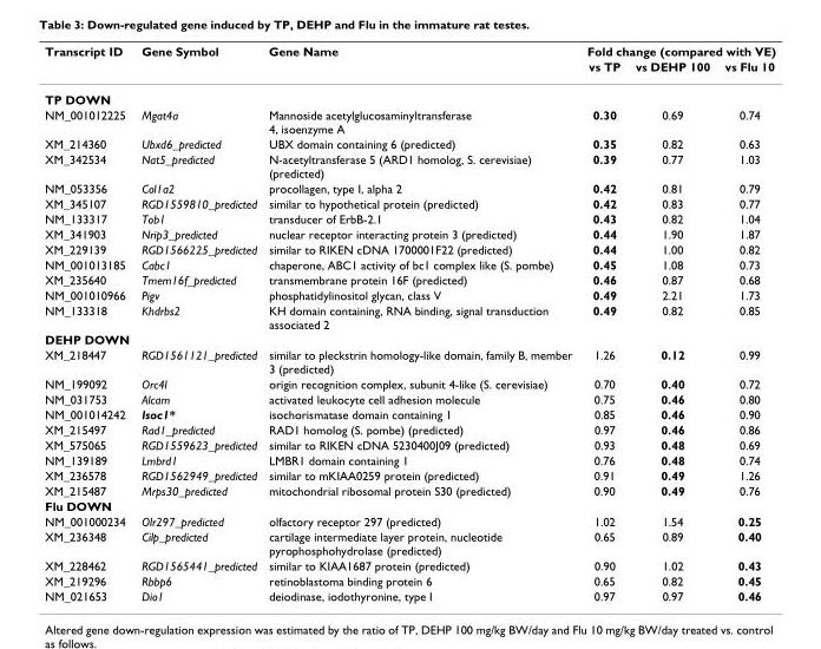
<table><thead><tr><td rowspan="2">Transcript ID</td><td rowspan="2">Gene Symbol</td><td rowspan="2">Gene Name</td><td colspan="3">Fold change (compared with VE)</td></tr><tr><td>vs TP</td><td>vs DEHP 100</td><td>vs Flu 10</td></tr></thead><tbody><tr><td colspan="6">TP DOWN</td></tr><tr><td>NM_001012225</td><td>Mgat4a</td><td>Mannoside acetylglucosaminyltransferase 4, isoenzyme A</td><td>0.30</td><td>0.69</td><td>0.74</td></tr><tr><td>XM_214360</td><td>Ubxd6_predicted</td><td>UBX domain containing 6 (predicted)</td><td>0.35</td><td>0.82</td><td>0.63</td></tr><tr><td>XM_342534</td><td>Nat5_predicted</td><td>N-acetyltransferase 5 (ARD1 homolog, S. cerevisiae) (predicted)</td><td>0.39</td><td>0.77</td><td>1.03</td></tr><tr><td>NM_053356</td><td>Col1a2</td><td>procollagen, type I, alpha 2</td><td>0.42</td><td>0.81</td><td>0.79</td></tr><tr><td>XM_345107</td><td>RGD1559810_predicted</td><td>similar to hypothetical protein (predicted)</td><td>0.42</td><td>0.83</td><td>0.77</td></tr><tr><td>NM_133317</td><td>Tob1</td><td>transducer of ErbB-2.1</td><td>0.43</td><td>0.82</td><td>1.04</td></tr><tr><td>XM_341903</td><td>Nrip3_predicted</td><td>nuclear receptor interacting protein 3 (predicted)</td><td>0.44</td><td>1.90</td><td>1.87</td></tr><tr><td>XM_229139</td><td>RGD1566225_predicted</td><td>similar to RIKEN cDNA 1700001F22 (predicted)</td><td>0.44</td><td>1.00</td><td>0.82</td></tr><tr><td>NM_001013185</td><td>Cabc1</td><td>chaperone, ABC1 activity of bc1 complex like (S. pombe)</td><td>0.45</td><td>1.08</td><td>0.73</td></tr><tr><td>XM_235640</td><td>Tmem16f_predicted</td><td>transmembrane protein 16F (predicted)</td><td>0.46</td><td>0.87</td><td>0.68</td></tr><tr><td>NM_001010966</td><td>Pigv</td><td>phosphatidylinositol glycan, class V</td><td>0.49</td><td>2.21</td><td>1.73</td></tr><tr><td>NM_133318</td><td>Khdrbs2</td><td>KH domain containing, RNA binding, signal transduction associated 2</td><td>0.49</td><td>0.82</td><td>0.85</td></tr><tr><td colspan="6">DEHP DOWN</td></tr><tr><td>XM_218447</td><td>RGD1561121_predicted</td><td>similar to pleckstrin homology-like domain, family B, member 3 (predicted)</td><td>1.26</td><td>0.12</td><td>0.99</td></tr><tr><td>NM_199092</td><td>Orc4l</td><td>origin recognition complex, subunit 4-like (S. cerevisiae)</td><td>0.70</td><td>0.40</td><td>0.72</td></tr><tr><td>NM_031753</td><td>Alcam</td><td>activated leukocyte cell adhesion molecule</td><td>0.75</td><td>0.46</td><td>0.80</td></tr><tr><td>NM_001014242</td><td>Isoc1*</td><td>isochorismatase domain containing 1</td><td>0.85</td><td>0.46</td><td>0.90</td></tr><tr><td>XM_215497</td><td>Rad1_predicted</td><td>RAD1 homolog (S. pombe) (predicted)</td><td>0.97</td><td>0.46</td><td>0.86</td></tr><tr><td>XM_575065</td><td>RGD1559623_predicted</td><td>similar to RIKEN cDNA 5230400J09 (predicted)</td><td>0.93</td><td>0.48</td><td>0.69</td></tr><tr><td>NM_139189</td><td>Lmbrd1</td><td>LMBR1 domain containing 1</td><td>0.76</td><td>0.48</td><td>0.74</td></tr><tr><td>XM_236578</td><td>RGD1562949_predicted</td><td>similar to mKIAA0259 protein (predicted)</td><td>0.91</td><td>0.49</td><td>1.26</td></tr><tr><td>XM_215487</td><td>Mrps30_predicted</td><td>mitochondrial ribosomal protein S30 (predicted)</td><td>0.90</td><td>0.49</td><td>0.76</td></tr><tr><td colspan="6">Flu DOWN</td></tr><tr><td>NM_001000234</td><td>Olr297_predicted</td><td>olfactory receptor 297 (predicted)</td><td>1.02</td><td>1.54</td><td>0.25</td></tr><tr><td>XM_236348</td><td>Cilp_predicted</td><td>cartilage intermediate layer protein, nucleotide pyrophosphohydrolase (predicted)</td><td>0.65</td><td>0.89</td><td>0.40</td></tr><tr><td>XM_228462</td><td>RGD1565441_predicted</td><td>similar to KIAA1687 protein (predicted)</td><td>0.90</td><td>1.02</td><td>0.43</td></tr><tr><td>XM_219296</td><td>Rbbp6</td><td>retinoblastoma binding protein 6</td><td>0.65</td><td>0.82</td><td>0.45</td></tr><tr><td>NM_021653</td><td>Dio1</td><td>deiodinase, iodothyronine, type I</td><td>0.97</td><td>0.97</td><td>0.46</td></tr></tbody></table>